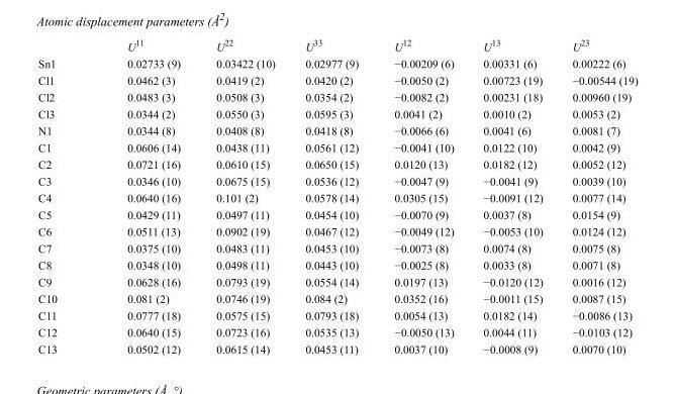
<table><thead><tr><td></td><td>U<sup>11</sup></td><td>U<sup>22</sup></td><td>U<sup>33</sup></td><td>U<sup>12</sup></td><td>U<sup>13</sup></td><td>U<sup>23</sup></td></tr></thead><tbody><tr><td>Sn1</td><td>0.02733 (9)</td><td>0.03422 (10)</td><td>0.02977 (9)</td><td>−0.00209 (6)</td><td>0.00331 (6)</td><td>0.00222 (6)</td></tr><tr><td>Cl1</td><td>0.0462 (3)</td><td>0.0419 (2)</td><td>0.0420 (2)</td><td>−0.0050 (2)</td><td>0.00723 (19)</td><td>−0.00544 (19)</td></tr><tr><td>Cl2</td><td>0.0483 (3)</td><td>0.0508 (3)</td><td>0.0354 (2)</td><td>−0.0082 (2)</td><td>0.00231 (18)</td><td>0.00960 (19)</td></tr><tr><td>Cl3</td><td>0.0344 (2)</td><td>0.0550 (3)</td><td>0.0595 (3)</td><td>0.0041 (2)</td><td>0.0010 (2)</td><td>0.0053 (2)</td></tr><tr><td>N1</td><td>0.0344 (8)</td><td>0.0408 (8)</td><td>0.0418 (8)</td><td>−0.0066 (6)</td><td>0.0041 (6)</td><td>0.0081 (7)</td></tr><tr><td>C1</td><td>0.0606 (14)</td><td>0.0438 (11)</td><td>0.0561 (12)</td><td>−0.0041 (10)</td><td>0.0122 (10)</td><td>0.0042 (9)</td></tr><tr><td>C2</td><td>0.0721 (16)</td><td>0.0610 (15)</td><td>0.0650 (15)</td><td>0.0120 (13)</td><td>0.0182 (12)</td><td>0.0052 (12)</td></tr><tr><td>C3</td><td>0.0346 (10)</td><td>0.0675 (15)</td><td>0.0536 (12)</td><td>−0.0047 (9)</td><td>−0.0041 (9)</td><td>0.0039 (10)</td></tr><tr><td>C4</td><td>0.0640 (16)</td><td>0.101 (2)</td><td>0.0578 (14)</td><td>0.0305 (15)</td><td>−0.0091 (12)</td><td>0.0077 (14)</td></tr><tr><td>C5</td><td>0.0429 (11)</td><td>0.0497 (11)</td><td>0.0454 (10)</td><td>−0.0070 (9)</td><td>0.0037 (8)</td><td>0.0154 (9)</td></tr><tr><td>C6</td><td>0.0511 (13)</td><td>0.0902 (19)</td><td>0.0467 (12)</td><td>−0.0049 (12)</td><td>−0.0053 (10)</td><td>0.0124 (12)</td></tr><tr><td>C7</td><td>0.0375 (10)</td><td>0.0483 (11)</td><td>0.0453 (10)</td><td>−0.0073 (8)</td><td>0.0074 (8)</td><td>0.0075 (8)</td></tr><tr><td>C8</td><td>0.0348 (10)</td><td>0.0498 (11)</td><td>0.0443 (10)</td><td>−0.0025 (8)</td><td>0.0033 (8)</td><td>0.0071 (8)</td></tr><tr><td>C9</td><td>0.0628 (16)</td><td>0.0793 (19)</td><td>0.0554 (14)</td><td>0.0197 (13)</td><td>−0.0120 (12)</td><td>0.0016 (12)</td></tr><tr><td>C10</td><td>0.081 (2)</td><td>0.0746 (19)</td><td>0.084 (2)</td><td>0.0352 (16)</td><td>−0.0011 (15)</td><td>0.0087 (15)</td></tr><tr><td>C11</td><td>0.0777 (18)</td><td>0.0575 (15)</td><td>0.0793 (18)</td><td>0.0054 (13)</td><td>0.0182 (14)</td><td>−0.0086 (13)</td></tr><tr><td>C12</td><td>0.0640 (15)</td><td>0.0723 (16)</td><td>0.0535 (13)</td><td>−0.0050 (13)</td><td>0.0044 (11)</td><td>−0.0103 (12)</td></tr><tr><td>C13</td><td>0.0502 (12)</td><td>0.0615 (14)</td><td>0.0453 (11)</td><td>0.0037 (10)</td><td>−0.0008 (9)</td><td>0.0070 (10)</td></tr></tbody></table>